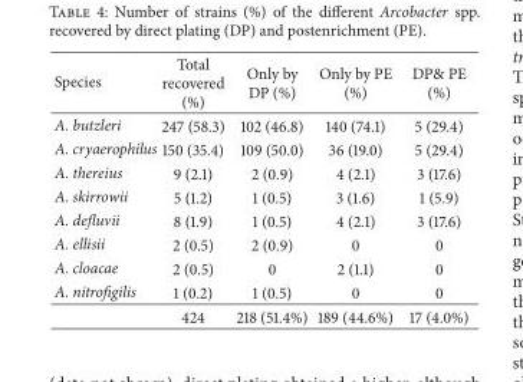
<table><thead><tr><td>Species</td><td>Total recovered (%)</td><td>Only by DP (%)</td><td>Only by PE (%)</td><td>DP&amp; PE (%)</td></tr></thead><tbody><tr><td>A. butzleri</td><td>247 (58.3)</td><td>102 (46.8)</td><td>140 (74.1)</td><td>5 (29.4)</td></tr><tr><td>A. cryaerophilus</td><td>150 (35.4)</td><td>109 (50.0)</td><td>36 (19.0)</td><td>5 (29.4)</td></tr><tr><td>A. thereius</td><td>9 (2.1)</td><td>2 (0.9)</td><td>4 (2.1)</td><td>3 (17.6)</td></tr><tr><td>A. skirrowii</td><td>5 (1.2)</td><td>1 (0.5)</td><td>3 (1.6)</td><td>1 (5.9)</td></tr><tr><td>A. defluvii</td><td>8 (1.9)</td><td>1 (0.5)</td><td>4 (2.1)</td><td>3 (17.6)</td></tr><tr><td>A. ellisii</td><td>2 (0.5)</td><td>2 (0.9)</td><td>0</td><td>0</td></tr><tr><td>A. cloacae</td><td>2 (0.5)</td><td>0</td><td>2 (1.1)</td><td>0</td></tr><tr><td rowspan="2">A. nitrofigilis</td><td>1 (0.2)</td><td>1 (0.5)</td><td>0</td><td>0</td></tr><tr><td>424</td><td>218 (51.4%)</td><td>189 (44.6%)</td><td>17 (4.0%)</td></tr></tbody></table>